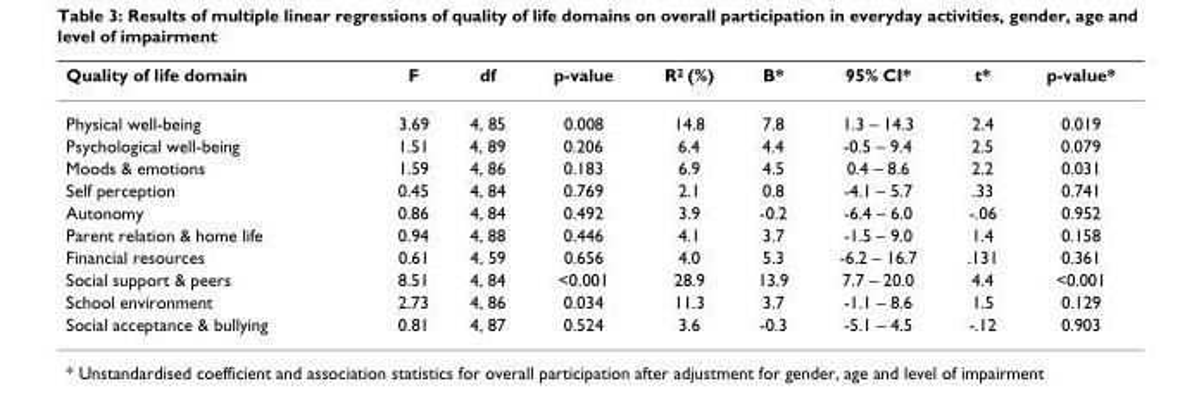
<table><thead><tr><td>Quality of life domain</td><td>F</td><td>df</td><td>p-value</td><td>R<sup>2</sup> (%)</td><td>B*</td><td>95% CI*</td><td>t*</td><td>p-value*</td></tr></thead><tbody><tr><td>Physical well-being</td><td>3.69</td><td>4, 85</td><td>0.008</td><td>14.8</td><td>7.8</td><td>1.3 – 14.3</td><td>2.4</td><td>0.019</td></tr><tr><td>Psychological well-being</td><td>1.51</td><td>4, 89</td><td>0.206</td><td>6.4</td><td>4.4</td><td>-0.5 – 9.4</td><td>2.5</td><td>0.079</td></tr><tr><td>Moods &amp; emotions</td><td>1.59</td><td>4, 86</td><td>0.183</td><td>6.9</td><td>4.5</td><td>0.4 – 8.6</td><td>2.2</td><td>0.031</td></tr><tr><td>Self perception</td><td>0.45</td><td>4, 84</td><td>0.769</td><td>2.1</td><td>0.8</td><td>-4.1 – 5.7</td><td>.33</td><td>0.741</td></tr><tr><td>Autonomy</td><td>0.86</td><td>4, 84</td><td>0.492</td><td>3.9</td><td>-0.2</td><td>-6.4 – 6.0</td><td>-.06</td><td>0.952</td></tr><tr><td>Parent relation &amp; home life</td><td>0.94</td><td>4, 88</td><td>0.446</td><td>4.1</td><td>3.7</td><td>-1.5 – 9.0</td><td>1.4</td><td>0.158</td></tr><tr><td>Financial resources</td><td>0.61</td><td>4, 59</td><td>0.656</td><td>4.0</td><td>5.3</td><td>-6.2 – 16.7</td><td>.131</td><td>0.361</td></tr><tr><td>Social support &amp; peers</td><td>8.51</td><td>4, 84</td><td>&lt;0.001</td><td>28.9</td><td>13.9</td><td>7.7 – 20.0</td><td>4.4</td><td>&lt;0.001</td></tr><tr><td>School environment</td><td>2.73</td><td>4, 86</td><td>0.034</td><td>11.3</td><td>3.7</td><td>-1.1 – 8.6</td><td>1.5</td><td>0.129</td></tr><tr><td>Social acceptance &amp; bullying</td><td>0.81</td><td>4, 87</td><td>0.524</td><td>3.6</td><td>-0.3</td><td>-5.1 – 4.5</td><td>-.12</td><td>0.903</td></tr></tbody></table>